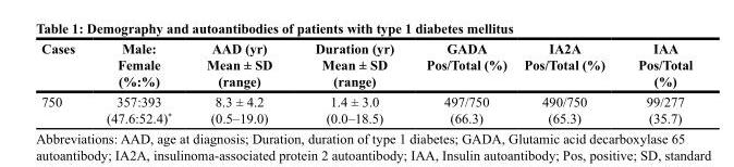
<table><thead><tr><td>Cases</td><td>Male: Female (%:%)</td><td>AAD (yr) Mean ± SD (range)</td><td>Duration (yr) Mean ± SD (range)</td><td>GADA Pos/Total (%)</td><td>IA2A Pos/Total (%)</td><td>IAA Pos/Total (%)</td></tr></thead><tbody><tr><td>750</td><td>357:393 (47.6:52.4)*</td><td>8.3 ± 4.2 (0.5–19.0)</td><td>1.4 ± 3.0 (0.0–18.5)</td><td>497/750 (66.3)</td><td>490/750 (65.3)</td><td>99/277 (35.7)</td></tr></tbody></table>